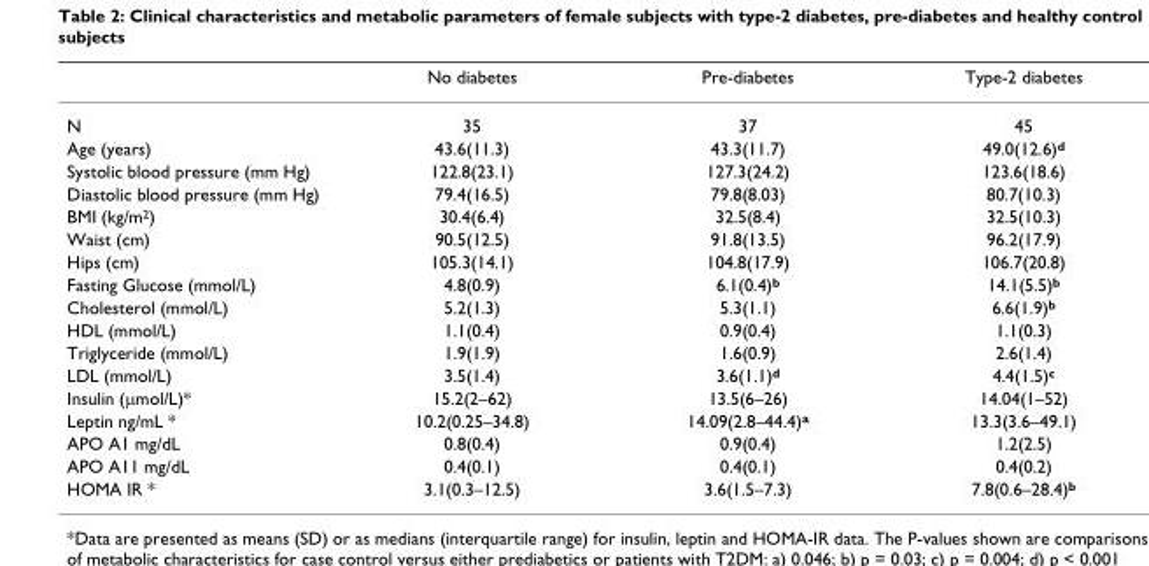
<table><thead><tr><td></td><td>No diabetes</td><td>Pre-diabetes</td><td>Type-2 diabetes</td></tr></thead><tbody><tr><td>N</td><td>35</td><td>37</td><td>45</td></tr><tr><td>Age (years)</td><td>43.6(11.3)</td><td>43.3(11.7)</td><td>49.0(12.6)<sup>d</sup></td></tr><tr><td>Systolic blood pressure (mm Hg)</td><td>122.8(23.1)</td><td>127.3(24.2)</td><td>123.6(18.6)</td></tr><tr><td>Diastolic blood pressure (mm Hg)</td><td>79.4(16.5)</td><td>79.8(8.03)</td><td>80.7(10.3)</td></tr><tr><td>BMI (kg/m<sup>2</sup>)</td><td>30.4(6.4)</td><td>32.5(8.4)</td><td>32.5(10.3)</td></tr><tr><td>Waist (cm)</td><td>90.5(12.5)</td><td>91.8(13.5)</td><td>96.2(17.9)</td></tr><tr><td>Hips (cm)</td><td>105.3(14.1)</td><td>104.8(17.9)</td><td>106.7(20.8)</td></tr><tr><td>Fasting Glucose (mmol/L)</td><td>4.8(0.9)</td><td>6.1(0.4)<sup>b</sup></td><td>14.1(5.5)<sup>b</sup></td></tr><tr><td>Cholesterol (mmol/L)</td><td>5.2(1.3)</td><td>5.3(1.1)</td><td>6.6(1.9)<sup>b</sup></td></tr><tr><td>HDL (mmol/L)</td><td>1.1(0.4)</td><td>0.9(0.4)</td><td>1.1(0.3)</td></tr><tr><td>Triglyceride (mmol/L)</td><td>1.9(1.9)</td><td>1.6(0.9)</td><td>2.6(1.4)</td></tr><tr><td>LDL (mmol/L)</td><td>3.5(1.4)</td><td>3.6(1.1)<sup>d</sup></td><td>4.4(1.5)<sup>c</sup></td></tr><tr><td>Insulin (μmol/L)*</td><td>15.2(2–62)</td><td>13.5(6–26)</td><td>14.04(1–52)</td></tr><tr><td>Leptin ng/mL *</td><td>10.2(0.25–34.8)</td><td>14.09(2.8–44.4)<sup>a</sup></td><td>13.3(3.6–49.1)</td></tr><tr><td>APO A1 mg/dL</td><td>0.8(0.4)</td><td>0.9(0.4)</td><td>1.2(2.5)</td></tr><tr><td>APO A11 mg/dL</td><td>0.4(0.1)</td><td>0.4(0.1)</td><td>0.4(0.2)</td></tr><tr><td>HOMA IR *</td><td>3.1(0.3–12.5)</td><td>3.6(1.5–7.3)</td><td>7.8(0.6–28.4)<sup>b</sup></td></tr></tbody></table>